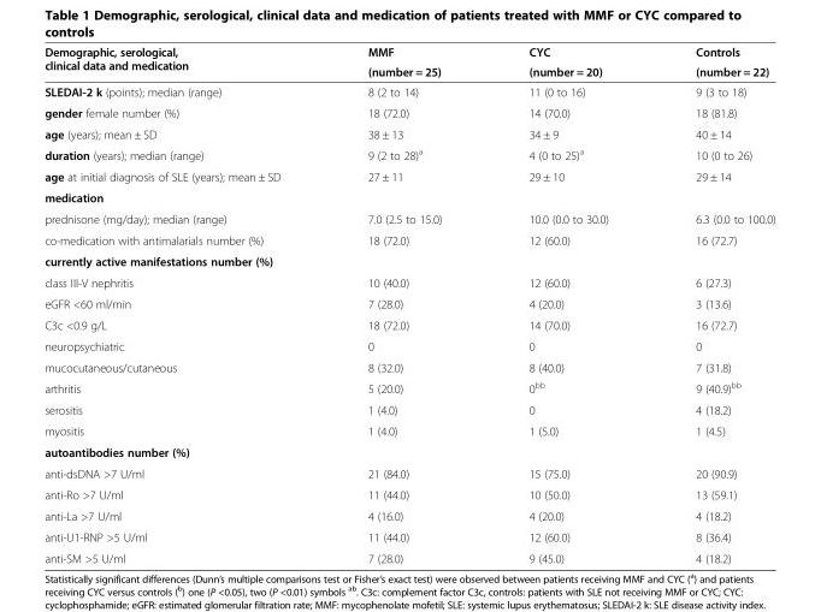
<table><thead><tr><td rowspan="2">Demographic, serological, clinical data and medication</td><td rowspan="2">MMF (number = 25)</td><td rowspan="2">CYC (number = 20)</td><td rowspan="2">Controls (number = 22)</td></tr><tr></tr></thead><tbody><tr><td>SLEDAI-2 k (points); median (range)</td><td>8 (2 to 14)</td><td>11 (0 to 16)</td><td>9 (3 to 18)</td></tr><tr><td>gender female number (%)</td><td>18 (72.0)</td><td>14 (70.0)</td><td>18 (81.8)</td></tr><tr><td>age (years); mean ± SD</td><td>38 ± 13</td><td>34 ± 9</td><td>40 ± 14</td></tr><tr><td>duration (years); median (range)</td><td>9 (2 to 28)<sup>a</sup></td><td>4 (0 to 25)<sup>a</sup></td><td>10 (0 to 26)</td></tr><tr><td>age at initial diagnosis of SLE (years); mean ± SD</td><td>27 ± 11</td><td>29 ± 10</td><td>29 ± 14</td></tr><tr><td colspan="4">medication</td></tr><tr><td>prednisone (mg/day); median (range)</td><td>7.0 (2.5 to 15.0)</td><td>10.0 (0.0 to 30.0)</td><td>6.3 (0.0 to 100.0)</td></tr><tr><td>co-medication with antimalarials number (%)</td><td>18 (72.0)</td><td>12 (60.0)</td><td>16 (72.7)</td></tr><tr><td colspan="4">currently active manifestations number (%)</td></tr><tr><td>class III-V nephritis</td><td>10 (40.0)</td><td>12 (60.0)</td><td>6 (27.3)</td></tr><tr><td>eGFR &lt;60 ml/min</td><td>7 (28.0)</td><td>4 (20.0)</td><td>3 (13.6)</td></tr><tr><td>C3c &lt;0.9 g/L</td><td>18 (72.0)</td><td>14 (70.0)</td><td>16 (72.7)</td></tr><tr><td>neuropsychiatric</td><td>0</td><td>0</td><td>0</td></tr><tr><td>mucocutaneous/cutaneous</td><td>8 (32.0)</td><td>8 (40.0)</td><td>7 (31.8)</td></tr><tr><td>arthritis</td><td>5 (20.0)</td><td>0<sup>bb</sup></td><td>9 (40.9)<sup>bb</sup></td></tr><tr><td>serositis</td><td>1 (4.0)</td><td>0</td><td>4 (18.2)</td></tr><tr><td>myositis</td><td>1 (4.0)</td><td>1 (5.0)</td><td>1 (4.5)</td></tr><tr><td colspan="4">autoantibodies number (%)</td></tr><tr><td>anti-dsDNA &gt;7 U/ml</td><td>21 (84.0)</td><td>15 (75.0)</td><td>20 (90.9)</td></tr><tr><td>anti-Ro &gt;7 U/ml</td><td>11 (44.0)</td><td>10 (50.0)</td><td>13 (59.1)</td></tr><tr><td>anti-La &gt;7 U/ml</td><td>4 (16.0)</td><td>4 (20.0)</td><td>4 (18.2)</td></tr><tr><td>anti-U1-RNP &gt;5 U/ml</td><td>11 (44.0)</td><td>12 (60.0)</td><td>8 (36.4)</td></tr><tr><td>anti-SM &gt;5 U/ml</td><td>7 (28.0)</td><td>9 (45.0)</td><td>4 (18.2)</td></tr></tbody></table>